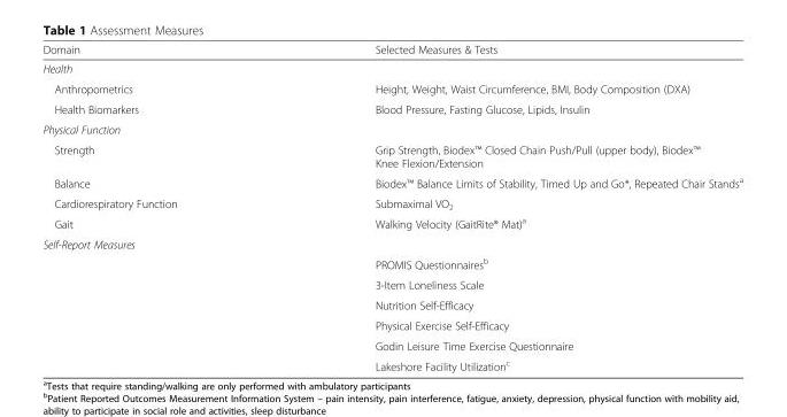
<table><thead><tr><td>Domain</td><td>Selected Measures &amp; Tests</td></tr></thead><tbody><tr><td colspan="2">Health</td></tr><tr><td>Anthropometrics</td><td>Height, Weight, Waist Circumference, BMI, Body Composition (DXA)</td></tr><tr><td>Health Biomarkers</td><td>Blood Pressure, Fasting Glucose, Lipids, Insulin</td></tr><tr><td colspan="2">Physical Function</td></tr><tr><td>Strength</td><td>Grip Strength, Biodex™ Closed Chain Push/Pull (upper body), Biodex™ Knee Flexion/Extension</td></tr><tr><td>Balance</td><td>Biodex™ Balance Limits of Stability, Timed Up and Go*, Repeated Chair Stands<sup>a</sup></td></tr><tr><td>Cardiorespiratory Function</td><td>Submaximal VO<sub>2</sub></td></tr><tr><td>Gait</td><td>Walking Velocity (GaitRite® Mat)<sup>a</sup></td></tr><tr><td colspan="2">Self-Report Measures</td></tr><tr><td rowspan="6"></td><td>PROMIS Questionnaires<sup>b</sup></td></tr><tr><td>3-Item Loneliness Scale</td></tr><tr><td>Nutrition Self-Efficacy</td></tr><tr><td>Physical Exercise Self-Efficacy</td></tr><tr><td>Godin Leisure Time Exercise Questionnaire</td></tr><tr><td>Lakeshore Facility Utilization<sup>c</sup></td></tr></tbody></table>